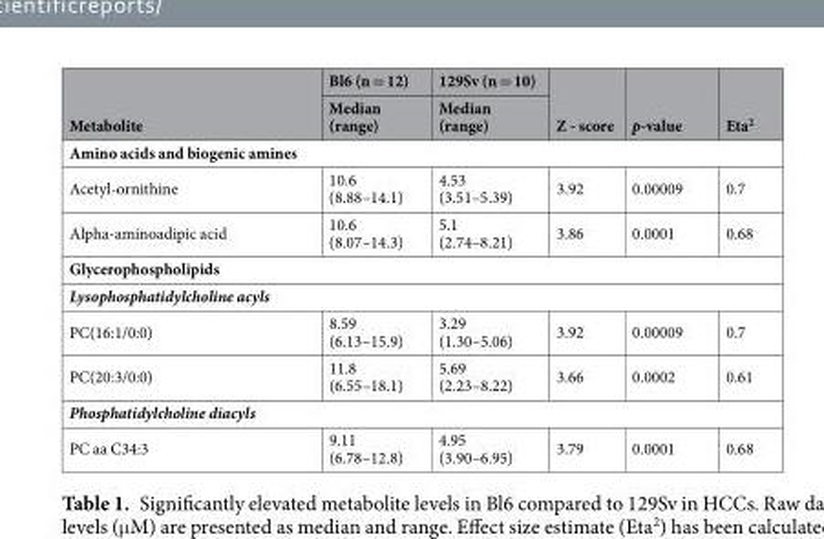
<table><thead><tr><td rowspan="2">Metabolite</td><td rowspan="2">Bl6 (n = 12) Median (range)</td><td rowspan="2">129Sv (n = 10) Median (range)</td><td rowspan="2">Z - score</td><td rowspan="2">p-value</td><td rowspan="2">Eta<sup>2</sup></td></tr><tr></tr></thead><tbody><tr><td colspan="6">Amino acids and biogenic amines</td></tr><tr><td>Acetyl-ornithine</td><td>10.6 (8.88–14.1)</td><td>4.53 (3.51–5.39)</td><td>3.92</td><td>0.00009</td><td>0.7</td></tr><tr><td>Alpha-aminoadipic acid</td><td>10.6 (8.07–14.3)</td><td>5.1 (2.74–8.21)</td><td>3.86</td><td>0.0001</td><td>0.68</td></tr><tr><td colspan="6">Glycerophospholipids</td></tr><tr><td colspan="6">Lysophosphatidylcholine acyls</td></tr><tr><td>PC(16:1/0:0)</td><td>8.59 (6.13–15.9)</td><td>3.29 (1.30–5.06)</td><td>3.92</td><td>0.00009</td><td>0.7</td></tr><tr><td>PC(20:3/0:0)</td><td>11.8 (6.55–18.1)</td><td>5.69 (2.23–8.22)</td><td>3.66</td><td>0.0002</td><td>0.61</td></tr><tr><td colspan="6">Phosphatidylcholine diacyls</td></tr><tr><td>PC aa C34:3</td><td>9.11 (6.78–12.8)</td><td>4.95 (3.90–6.95)</td><td>3.79</td><td>0.0001</td><td>0.68</td></tr></tbody></table>